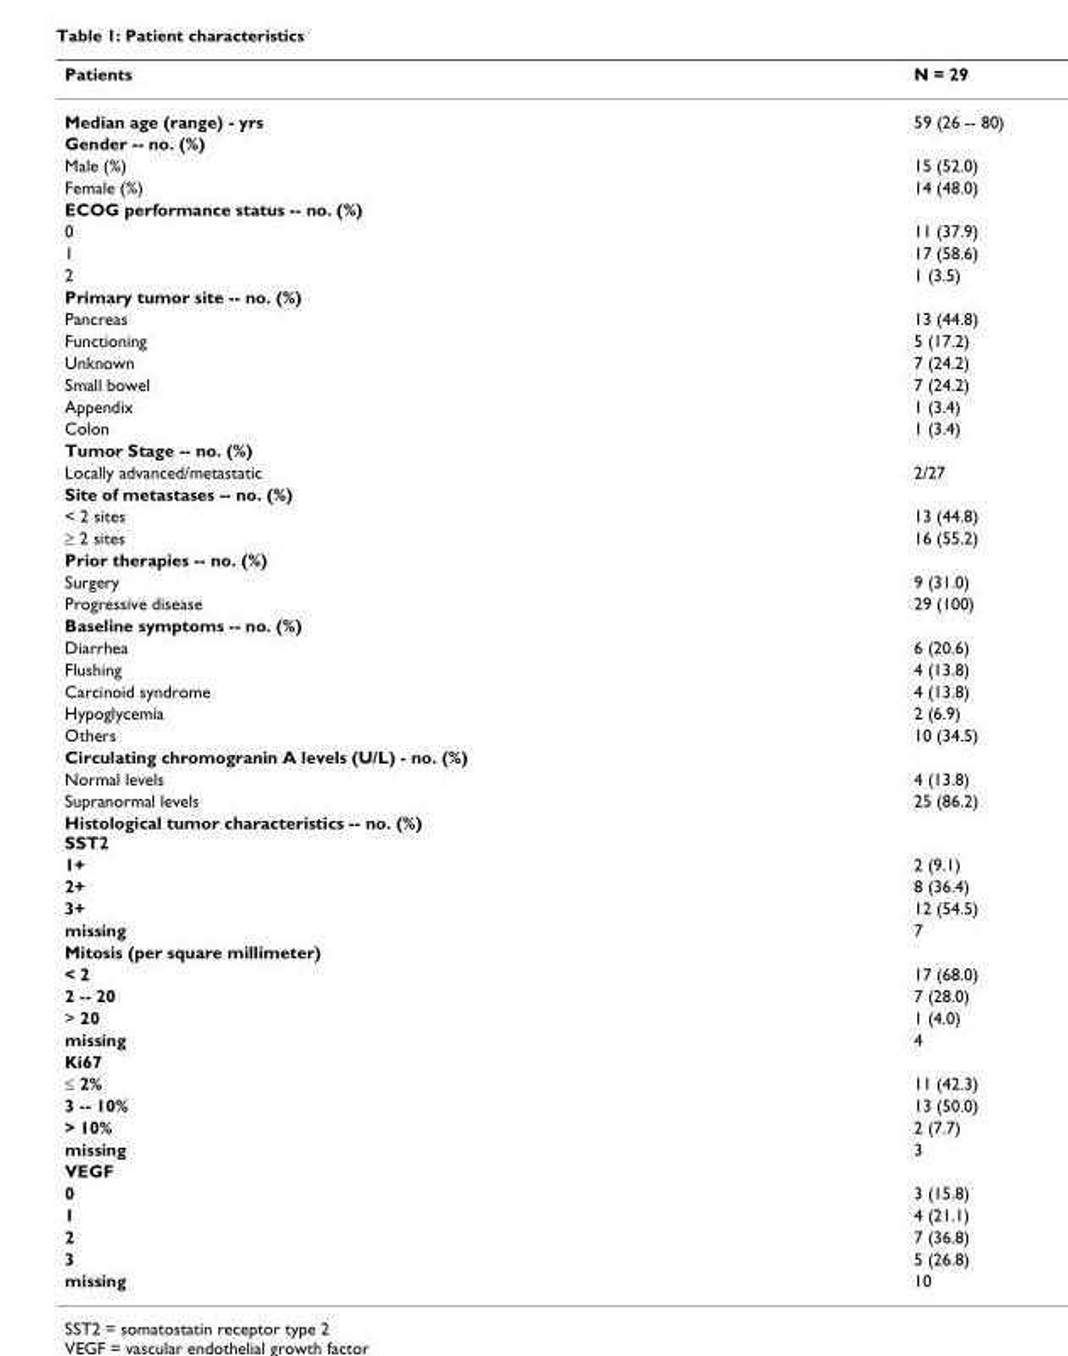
<table><thead><tr><td>Patients</td><td>N = 29</td></tr></thead><tbody><tr><td>Median age (range) - yrs</td><td>59 (26 -- 80)</td></tr><tr><td colspan="2">Gender -- no. (%)</td></tr><tr><td>Male (%)</td><td>15 (52.0)</td></tr><tr><td>Female (%)</td><td>14 (48.0)</td></tr><tr><td colspan="2">ECOG performance status -- no. (%)</td></tr><tr><td>0</td><td>11 (37.9)</td></tr><tr><td>1</td><td>17 (58.6)</td></tr><tr><td>2</td><td>1 (3.5)</td></tr><tr><td colspan="2">Primary tumor site -- no. (%)</td></tr><tr><td>Pancreas</td><td>13 (44.8)</td></tr><tr><td>Functioning</td><td>5 (17.2)</td></tr><tr><td>Unknown</td><td>7 (24.2)</td></tr><tr><td>Small bowel</td><td>7 (24.2)</td></tr><tr><td>Appendix</td><td>1 (3.4)</td></tr><tr><td>Colon</td><td>1 (3.4)</td></tr><tr><td colspan="2">Tumor Stage -- no. (%)</td></tr><tr><td>Locally advanced/metastatic</td><td>2/27</td></tr><tr><td colspan="2">Site of metastases -- no. (%)</td></tr><tr><td>&lt; 2 sites</td><td>13 (44.8)</td></tr><tr><td>≥ 2 sites</td><td>16 (55.2)</td></tr><tr><td colspan="2">Prior therapies -- no. (%)</td></tr><tr><td>Surgery</td><td>9 (31.0)</td></tr><tr><td>Progressive disease</td><td>29 (100)</td></tr><tr><td colspan="2">Baseline symptoms -- no. (%)</td></tr><tr><td>Diarrhea</td><td>6 (20.6)</td></tr><tr><td>Flushing</td><td>4 (13.8)</td></tr><tr><td>Carcinoid syndrome</td><td>4 (13.8)</td></tr><tr><td>Hypoglycemia</td><td>2 (6.9)</td></tr><tr><td>Others</td><td>10 (34.5)</td></tr><tr><td colspan="2">Circulating chromogranin A levels (U/L) - no. (%)</td></tr><tr><td>Normal levels</td><td>4 (13.8)</td></tr><tr><td>Supranormal levels</td><td>25 (86.2)</td></tr><tr><td colspan="2">Histological tumor characteristics -- no. (%) SST2</td></tr><tr><td>1+</td><td>2 (9.1)</td></tr><tr><td>2+</td><td>8 (36.4)</td></tr><tr><td>3+</td><td>12 (54.5)</td></tr><tr><td>missing</td><td>7</td></tr><tr><td colspan="2">Mitosis (per square millimeter)</td></tr><tr><td>&lt; 2</td><td>17 (68.0)</td></tr><tr><td>2 -- 20</td><td>7 (28.0)</td></tr><tr><td>&gt; 20</td><td>1 (4.0)</td></tr><tr><td>missing</td><td>4</td></tr><tr><td colspan="2">Ki67</td></tr><tr><td>≤ 2%</td><td>11 (42.3)</td></tr><tr><td>3 -- 10%</td><td>13 (50.0)</td></tr><tr><td>&gt; 10%</td><td>2 (7.7)</td></tr><tr><td>missing</td><td>3</td></tr><tr><td colspan="2">VEGF</td></tr><tr><td>0</td><td>3 (15.8)</td></tr><tr><td>1</td><td>4 (21.1)</td></tr><tr><td>2</td><td>7 (36.8)</td></tr><tr><td>3</td><td>5 (26.8)</td></tr><tr><td>missing</td><td>10</td></tr></tbody></table>